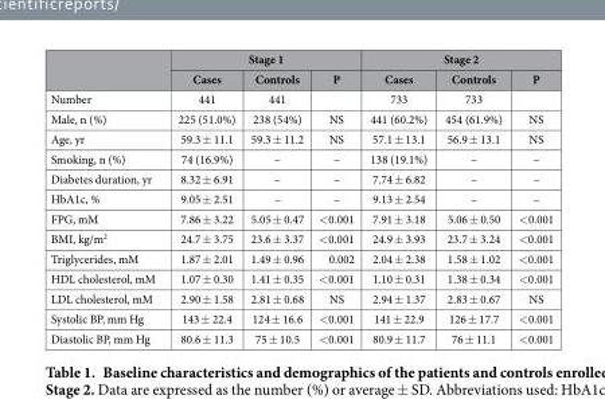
<table><thead><tr><td rowspan="2"></td><td colspan="3">Stage 1</td><td colspan="3">Stage 2</td></tr><tr><td>Cases</td><td>Controls</td><td>P</td><td>Cases</td><td>Controls</td><td>P</td></tr></thead><tbody><tr><td>Number</td><td>441</td><td>441</td><td></td><td>733</td><td>733</td><td></td></tr><tr><td>Male, n (%)</td><td>225 (51.0%)</td><td>238 (54%)</td><td>NS</td><td>441 (60.2%)</td><td>454 (61.9%)</td><td>NS</td></tr><tr><td>Age, yr</td><td>59.3 ± 11.1</td><td>59.3 ± 11.2</td><td>NS</td><td>57.1 ± 13.1</td><td>56.9 ± 13.1</td><td>NS</td></tr><tr><td>Smoking, n (%)</td><td>74 (16.9%)</td><td>–</td><td>–</td><td>138 (19.1%)</td><td>–</td><td>–</td></tr><tr><td>Diabetes duration, yr</td><td>8.32 ± 6.91</td><td>–</td><td>–</td><td>7.74 ± 6.82</td><td>–</td><td>–</td></tr><tr><td>HbA1c, %</td><td>9.05 ± 2.51</td><td>–</td><td>–</td><td>9.13 ± 2.54</td><td>–</td><td>–</td></tr><tr><td>FPG, mM</td><td>7.86 ± 3.22</td><td>5.05 ± 0.47</td><td>&lt;0.001</td><td>7.91 ± 3.18</td><td>5.06 ± 0.50</td><td>&lt;0.001</td></tr><tr><td>BMI, kg/m<sup>2</sup></td><td>24.7 ± 3.75</td><td>23.6 ± 3.37</td><td>&lt;0.001</td><td>24.9 ± 3.93</td><td>23.7 ± 3.24</td><td>&lt;0.001</td></tr><tr><td>Triglycerides, mM</td><td>1.87 ± 2.01</td><td>1.49 ± 0.96</td><td>0.002</td><td>2.04 ± 2.38</td><td>1.58 ± 1.02</td><td>&lt;0.001</td></tr><tr><td>HDL cholesterol, mM</td><td>1.07 ± 0.30</td><td>1.41 ± 0.35</td><td>&lt;0.001</td><td>1.10 ± 0.31</td><td>1.38 ± 0.34</td><td>&lt;0.001</td></tr><tr><td>LDL cholesterol, mM</td><td>2.90 ± 1.58</td><td>2.81 ± 0.68</td><td>NS</td><td>2.94 ± 1.37</td><td>2.83 ± 0.67</td><td>NS</td></tr><tr><td>Systolic BP, mm Hg</td><td>143 ± 22.4</td><td>124 ± 16.6</td><td>&lt;0.001</td><td>141 ± 22.9</td><td>126 ± 17.7</td><td>&lt;0.001</td></tr><tr><td>Diastolic BP, mm Hg</td><td>80.6 ± 11.3</td><td>75 ± 10.5</td><td>&lt;0.001</td><td>80.9 ± 11.7</td><td>76 ± 11.1</td><td>&lt;0.001</td></tr></tbody></table>